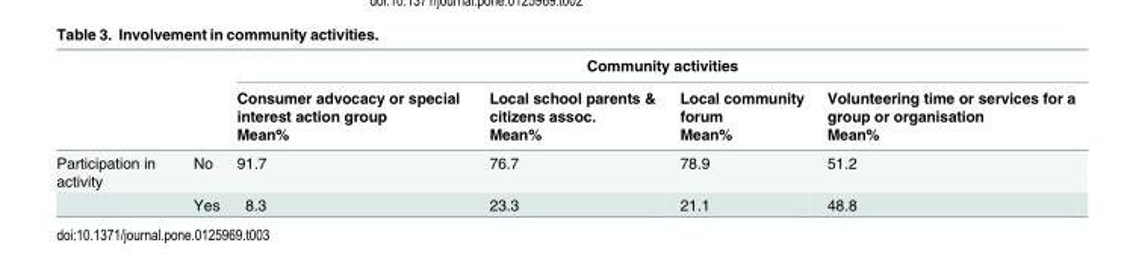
<table><thead><tr><td rowspan="3"></td><td rowspan="3"></td><td colspan="4">Community activities</td></tr><tr><td rowspan="2">Consumer advocacy or special interest action group Mean%</td><td rowspan="2">Local school parents &amp; citizens assoc. Mean%</td><td rowspan="2">Local community forum Mean%</td><td rowspan="2">Volunteering time or services for a group or organisation Mean%</td></tr><tr></tr></thead><tbody><tr><td rowspan="2">Participation in activity</td><td>No</td><td>91.7</td><td>76.7</td><td>78.9</td><td>51.2</td></tr><tr><td>Yes</td><td>8.3</td><td>23.3</td><td>21.1</td><td>48.8</td></tr></tbody></table>